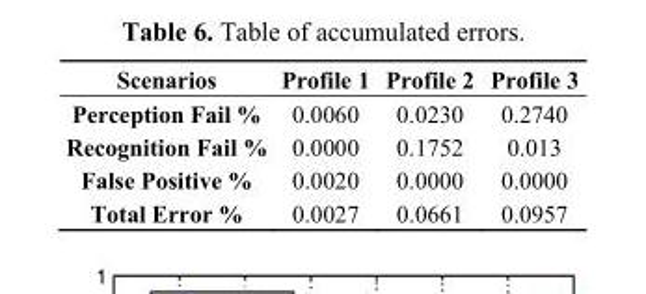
<table><thead><tr><td>Scenarios</td><td>Profile 1</td><td>Profile 2</td><td>Profile 3</td></tr></thead><tbody><tr><td>Perception Fail %</td><td>0.0060</td><td>0.0230</td><td>0.2740</td></tr><tr><td>Recognition Fail %</td><td>0.0000</td><td>0.1752</td><td>0.013</td></tr><tr><td>False Positive %</td><td>0.0020</td><td>0.0000</td><td>0.0000</td></tr><tr><td>Total Error %</td><td>0.0027</td><td>0.0661</td><td>0.0957</td></tr></tbody></table>